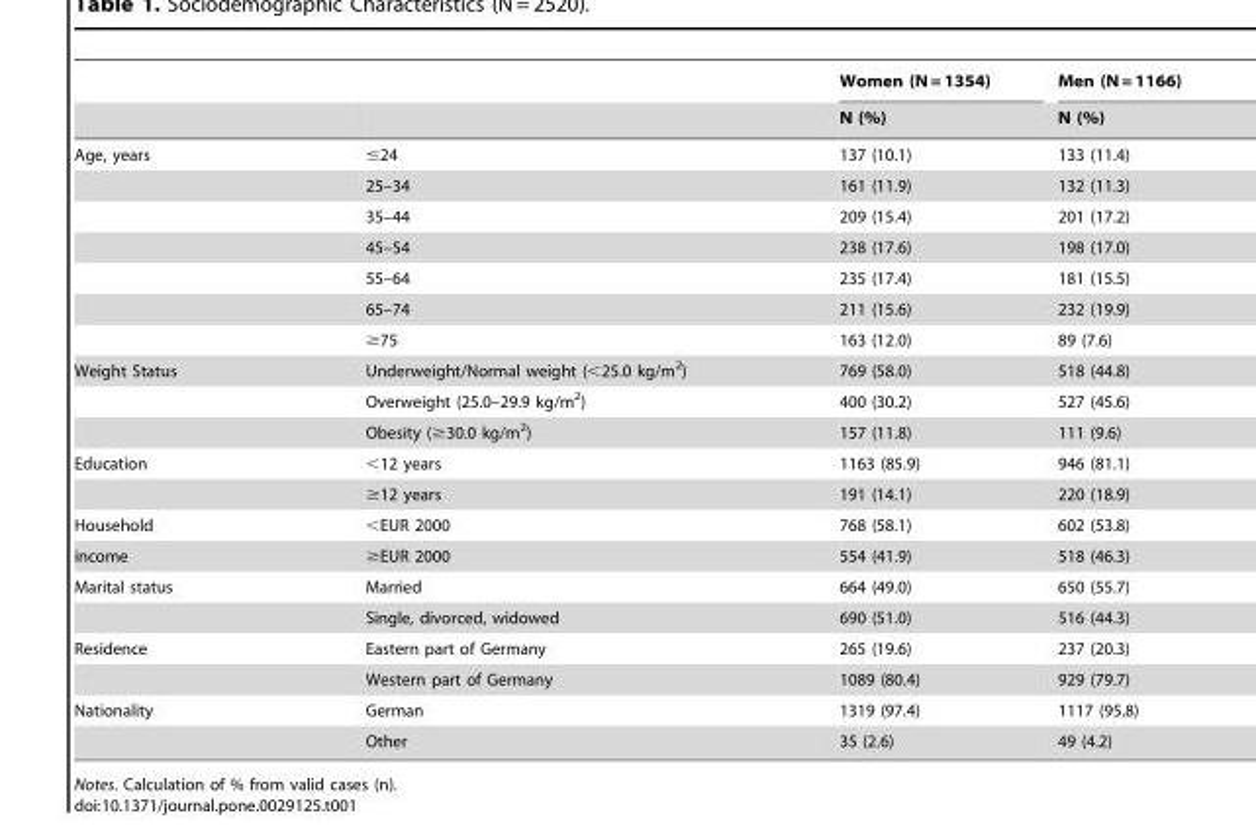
<table><thead><tr><td rowspan="2"></td><td rowspan="2"></td><td rowspan="2">Women (N = 1354) N (%)</td><td rowspan="2">Men (N = 1166) N (%)</td></tr><tr></tr></thead><tbody><tr><td rowspan="7">Age, years</td><td>≤24</td><td>137 (10.1)</td><td>133 (11.4)</td></tr><tr><td>25–34</td><td>161 (11.9)</td><td>132 (11.3)</td></tr><tr><td>35–44</td><td>209 (15.4)</td><td>201 (17.2)</td></tr><tr><td>45–54</td><td>238 (17.6)</td><td>198 (17.0)</td></tr><tr><td>55–64</td><td>235 (17.4)</td><td>181 (15.5)</td></tr><tr><td>65–74</td><td>211 (15.6)</td><td>232 (19.9)</td></tr><tr><td>≥75</td><td>163 (12.0)</td><td>89 (7.6)</td></tr><tr><td rowspan="3">Weight Status</td><td>Underweight/Normal weight (&lt;25.0 kg/m<sup>2</sup>)</td><td>769 (58.0)</td><td>518 (44.8)</td></tr><tr><td>Overweight (25.0–29.9 kg/m<sup>2</sup>)</td><td>400 (30.2)</td><td>527 (45.6)</td></tr><tr><td>Obesity (≥30.0 kg/m<sup>2</sup>)</td><td>157 (11.8)</td><td>111 (9.6)</td></tr><tr><td rowspan="2">Education</td><td>&lt;12 years</td><td>1163 (85.9)</td><td>946 (81.1)</td></tr><tr><td>≥12 years</td><td>191 (14.1)</td><td>220 (18.9)</td></tr><tr><td>Household</td><td>&lt;EUR 2000</td><td>768 (58.1)</td><td>602 (53.8)</td></tr><tr><td>income</td><td>≥EUR 2000</td><td>554 (41.9)</td><td>518 (46.3)</td></tr><tr><td rowspan="2">Marital status</td><td>Married</td><td>664 (49.0)</td><td>650 (55.7)</td></tr><tr><td>Single, divorced, widowed</td><td>690 (51.0)</td><td>516 (44.3)</td></tr><tr><td rowspan="2">Residence</td><td>Eastern part of Germany</td><td>265 (19.6)</td><td>237 (20.3)</td></tr><tr><td>Western part of Germany</td><td>1089 (80.4)</td><td>929 (79.7)</td></tr><tr><td rowspan="2">Nationality</td><td>German</td><td>1319 (97.4)</td><td>1117 (95.8)</td></tr><tr><td>Other</td><td>35 (2.6)</td><td>49 (4.2)</td></tr></tbody></table>